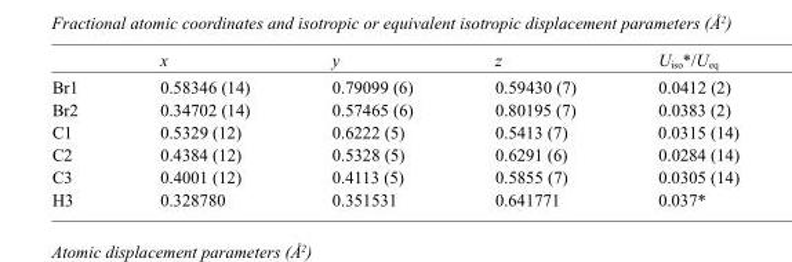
<table><thead><tr><td></td><td>x</td><td>y</td><td>z</td><td>U<sub>iso</sub>*/U<sub>eq</sub></td></tr></thead><tbody><tr><td>Br1</td><td>0.58346 (14)</td><td>0.79099 (6)</td><td>0.59430 (7)</td><td>0.0412 (2)</td></tr><tr><td>Br2</td><td>0.34702 (14)</td><td>0.57465 (6)</td><td>0.80195 (7)</td><td>0.0383 (2)</td></tr><tr><td>C1</td><td>0.5329 (12)</td><td>0.6222 (5)</td><td>0.5413 (7)</td><td>0.0315 (14)</td></tr><tr><td>C2</td><td>0.4384 (12)</td><td>0.5328 (5)</td><td>0.6291 (6)</td><td>0.0284 (14)</td></tr><tr><td>C3</td><td>0.4001 (12)</td><td>0.4113 (5)</td><td>0.5855 (7)</td><td>0.0305 (14)</td></tr><tr><td>H3</td><td>0.328780</td><td>0.351531</td><td>0.641771</td><td>0.037*</td></tr></tbody></table>